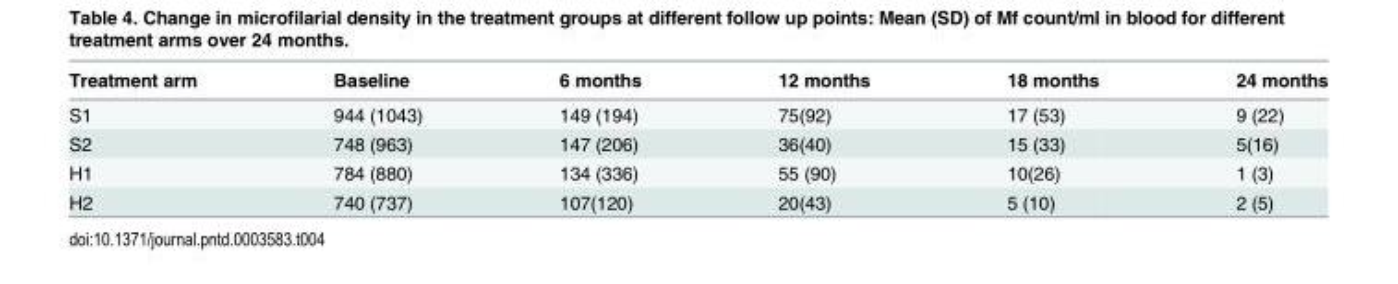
<table><thead><tr><td>Treatment arm</td><td>Baseline</td><td>6 months</td><td>12 months</td><td>18 months</td><td>24 months</td></tr></thead><tbody><tr><td>S1</td><td>944 (1043)</td><td>149 (194)</td><td>75(92)</td><td>17 (53)</td><td>9 (22)</td></tr><tr><td>S2</td><td>748 (963)</td><td>147 (206)</td><td>36(40)</td><td>15 (33)</td><td>5(16)</td></tr><tr><td>H1</td><td>784 (880)</td><td>134 (336)</td><td>55 (90)</td><td>10(26)</td><td>1 (3)</td></tr><tr><td>H2</td><td>740 (737)</td><td>107(120)</td><td>20(43)</td><td>5 (10)</td><td>2 (5)</td></tr></tbody></table>